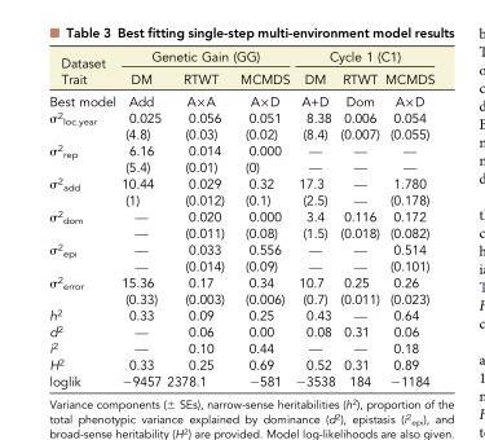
<table><thead><tr><td rowspan="2">Dataset Trait</td><td colspan="3">Genetic Gain (GG)</td><td colspan="3">Cycle 1 (C1)</td></tr><tr><td>DM</td><td>RTWT</td><td>MCMDS</td><td>DM</td><td>RTWT</td><td>MCMDS</td></tr></thead><tbody><tr><td>Best model</td><td>Add</td><td>A×A</td><td>A×D</td><td>A+D</td><td>Dom</td><td>A×D</td></tr><tr><td rowspan="2">σ<sup>2</sup><sub>loc.year</sub></td><td>0.025</td><td>0.056</td><td>0.051</td><td>8.38</td><td>0.006</td><td>0.054</td></tr><tr><td>(4.8)</td><td>(0.03)</td><td>(0.02)</td><td>(8.4)</td><td>(0.007)</td><td>(0.055)</td></tr><tr><td rowspan="2">σ<sup>2</sup><sub>rep</sub></td><td>6.16</td><td>0.014</td><td>0.000</td><td>—</td><td>—</td><td>—</td></tr><tr><td>(5.4)</td><td>(0.01)</td><td>(0)</td><td>—</td><td>—</td><td>—</td></tr><tr><td rowspan="2">σ<sup>2</sup><sub>add</sub></td><td>10.44</td><td>0.029</td><td>0.32</td><td>17.3</td><td>—</td><td>1.780</td></tr><tr><td>(1)</td><td>(0.012)</td><td>(0.1)</td><td>(2.5)</td><td>—</td><td>(0.178)</td></tr><tr><td rowspan="2">σ<sup>2</sup><sub>dom</sub></td><td>—</td><td>0.020</td><td>0.000</td><td>3.4</td><td>0.116</td><td>0.172</td></tr><tr><td>—</td><td>(0.011)</td><td>(0.08)</td><td>(1.5)</td><td>(0.018)</td><td>(0.082)</td></tr><tr><td rowspan="2">σ<sup>2</sup><sub>epi</sub></td><td>—</td><td>0.033</td><td>0.556</td><td>—</td><td>—</td><td>0.514</td></tr><tr><td>—</td><td>(0.014)</td><td>(0.09)</td><td>—</td><td>—</td><td>(0.101)</td></tr><tr><td rowspan="2">σ<sup>2</sup><sub>error</sub></td><td>15.36</td><td>0.17</td><td>0.34</td><td>10.7</td><td>0.25</td><td>0.26</td></tr><tr><td>(0.33)</td><td>(0.003)</td><td>(0.006)</td><td>(0.7)</td><td>(0.011)</td><td>(0.023)</td></tr><tr><td>h<sup>2</sup></td><td>0.33</td><td>0.09</td><td>0.25</td><td>0.43</td><td>—</td><td>0.64</td></tr><tr><td>d<sup>2</sup></td><td>—</td><td>0.06</td><td>0.00</td><td>0.08</td><td>0.31</td><td>0.06</td></tr><tr><td>i<sup>2</sup></td><td>—</td><td>0.10</td><td>0.44</td><td>—</td><td>—</td><td>0.18</td></tr><tr><td>H<sup>2</sup></td><td>0.33</td><td>0.25</td><td>0.69</td><td>0.52</td><td>0.31</td><td>0.89</td></tr><tr><td>loglik</td><td>−9457</td><td>2378.1</td><td>−581</td><td>−3538</td><td>184</td><td>−1184</td></tr></tbody></table>